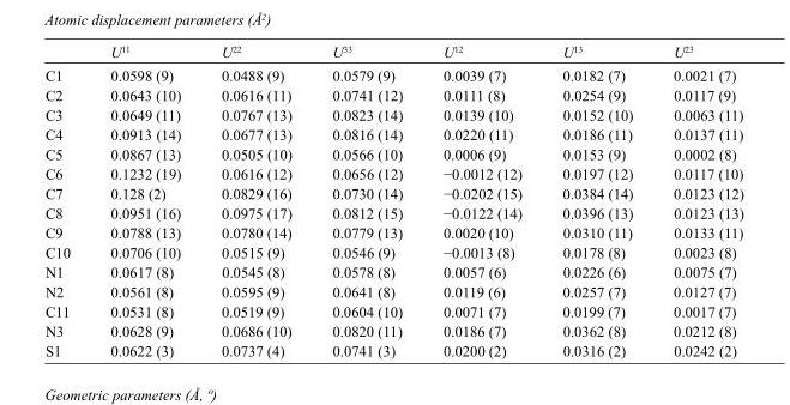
<table><thead><tr><td></td><td>U<sup>11</sup></td><td>U<sup>22</sup></td><td>U<sup>33</sup></td><td>U<sup>12</sup></td><td>U<sup>13</sup></td><td>U<sup>23</sup></td></tr></thead><tbody><tr><td>C1</td><td>0.0598 (9)</td><td>0.0488 (9)</td><td>0.0579 (9)</td><td>0.0039 (7)</td><td>0.0182 (7)</td><td>0.0021 (7)</td></tr><tr><td>C2</td><td>0.0643 (10)</td><td>0.0616 (11)</td><td>0.0741 (12)</td><td>0.0111 (8)</td><td>0.0254 (9)</td><td>0.0117 (9)</td></tr><tr><td>C3</td><td>0.0649 (11)</td><td>0.0767 (13)</td><td>0.0823 (14)</td><td>0.0139 (10)</td><td>0.0152 (10)</td><td>0.0063 (11)</td></tr><tr><td>C4</td><td>0.0913 (14)</td><td>0.0677 (13)</td><td>0.0816 (14)</td><td>0.0220 (11)</td><td>0.0186 (11)</td><td>0.0137 (11)</td></tr><tr><td>C5</td><td>0.0867 (13)</td><td>0.0505 (10)</td><td>0.0566 (10)</td><td>0.0006 (9)</td><td>0.0153 (9)</td><td>0.0002 (8)</td></tr><tr><td>C6</td><td>0.1232 (19)</td><td>0.0616 (12)</td><td>0.0656 (12)</td><td>−0.0012 (12)</td><td>0.0197 (12)</td><td>0.0117 (10)</td></tr><tr><td>C7</td><td>0.128 (2)</td><td>0.0829 (16)</td><td>0.0730 (14)</td><td>−0.0202 (15)</td><td>0.0384 (14)</td><td>0.0123 (12)</td></tr><tr><td>C8</td><td>0.0951 (16)</td><td>0.0975 (17)</td><td>0.0812 (15)</td><td>−0.0122 (14)</td><td>0.0396 (13)</td><td>0.0123 (13)</td></tr><tr><td>C9</td><td>0.0788 (13)</td><td>0.0780 (14)</td><td>0.0779 (13)</td><td>0.0020 (10)</td><td>0.0310 (11)</td><td>0.0133 (11)</td></tr><tr><td>C10</td><td>0.0706 (10)</td><td>0.0515 (9)</td><td>0.0546 (9)</td><td>−0.0013 (8)</td><td>0.0178 (8)</td><td>0.0023 (8)</td></tr><tr><td>N1</td><td>0.0617 (8)</td><td>0.0545 (8)</td><td>0.0578 (8)</td><td>0.0057 (6)</td><td>0.0226 (6)</td><td>0.0075 (7)</td></tr><tr><td>N2</td><td>0.0561 (8)</td><td>0.0595 (9)</td><td>0.0641 (8)</td><td>0.0119 (6)</td><td>0.0257 (7)</td><td>0.0127 (7)</td></tr><tr><td>C11</td><td>0.0531 (8)</td><td>0.0519 (9)</td><td>0.0604 (10)</td><td>0.0071 (7)</td><td>0.0199 (7)</td><td>0.0017 (7)</td></tr><tr><td>N3</td><td>0.0628 (9)</td><td>0.0686 (10)</td><td>0.0820 (11)</td><td>0.0186 (7)</td><td>0.0362 (8)</td><td>0.0212 (8)</td></tr><tr><td>S1</td><td>0.0622 (3)</td><td>0.0737 (4)</td><td>0.0741 (3)</td><td>0.0200 (2)</td><td>0.0316 (2)</td><td>0.0242 (2)</td></tr></tbody></table>